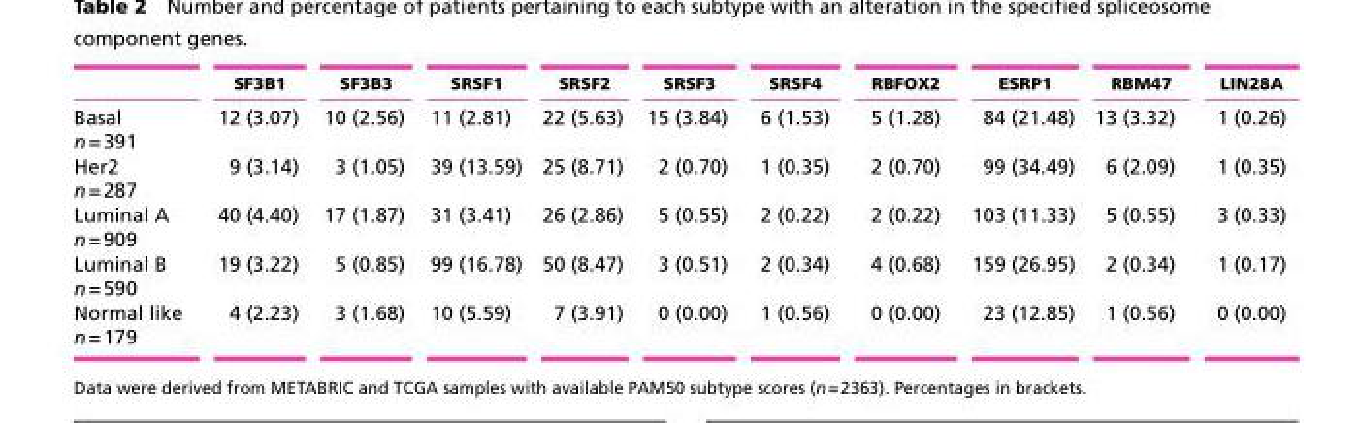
<table><thead><tr><td></td><td>SF3B1</td><td>SF3B3</td><td>SRSF1</td><td>SRSF2</td><td>SRSF3</td><td>SRSF4</td><td>RBFOX2</td><td>ESRP1</td><td>RBM47</td><td>LIN28A</td></tr></thead><tbody><tr><td>Basal n = 391</td><td>12 (3.07)</td><td>10 (2.56)</td><td>11 (2.81)</td><td>22 (5.63)</td><td>15 (3.84)</td><td>6 (1.53)</td><td>5 (1.28)</td><td>84 (21.48)</td><td>13 (3.32)</td><td>1 (0.26)</td></tr><tr><td>Her2 n = 287</td><td>9 (3.14)</td><td>3 (1.05)</td><td>39 (13.59)</td><td>25 (8.71)</td><td>2 (0.70)</td><td>1 (0.35)</td><td>2 (0.70)</td><td>99 (34.49)</td><td>6 (2.09)</td><td>1 (0.35)</td></tr><tr><td>Luminal A n = 909</td><td>40 (4.40)</td><td>17 (1.87)</td><td>31 (3.41)</td><td>26 (2.86)</td><td>5 (0.55)</td><td>2 (0.22)</td><td>2 (0.22)</td><td>103 (11.33)</td><td>5 (0.55)</td><td>3 (0.33)</td></tr><tr><td>Luminal B n = 590</td><td>19 (3.22)</td><td>5 (0.85)</td><td>99 (16.78)</td><td>50 (8.47)</td><td>3 (0.51)</td><td>2 (0.34)</td><td>4 (0.68)</td><td>159 (26.95)</td><td>2 (0.34)</td><td>1 (0.17)</td></tr><tr><td>Normal like n = 179</td><td>4 (2.23)</td><td>3 (1.68)</td><td>10 (5.59)</td><td>7 (3.91)</td><td>0 (0.00)</td><td>1 (0.56)</td><td>0 (0.00)</td><td>23 (12.85)</td><td>1 (0.56)</td><td>0 (0.00)</td></tr></tbody></table>